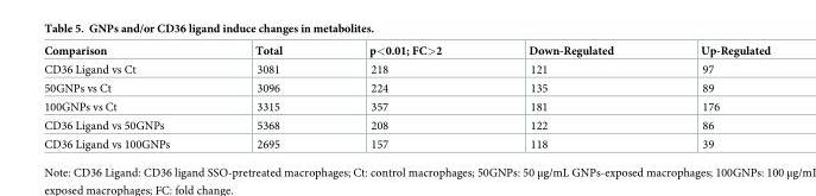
<table><thead><tr><td>Comparison</td><td>Total</td><td>p&lt;0.01; FC&gt;2</td><td>Down-Regulated</td><td>Up-Regulated</td></tr></thead><tbody><tr><td>CD36 Ligand vs Ct</td><td>3081</td><td>218</td><td>121</td><td>97</td></tr><tr><td>50GNPs vs Ct</td><td>3096</td><td>224</td><td>135</td><td>89</td></tr><tr><td>100GNPs vs Ct</td><td>3315</td><td>357</td><td>181</td><td>176</td></tr><tr><td>CD36 Ligand vs 50GNPs</td><td>5368</td><td>208</td><td>122</td><td>86</td></tr><tr><td>CD36 Ligand vs 100GNPs</td><td>2695</td><td>157</td><td>118</td><td>39</td></tr></tbody></table>